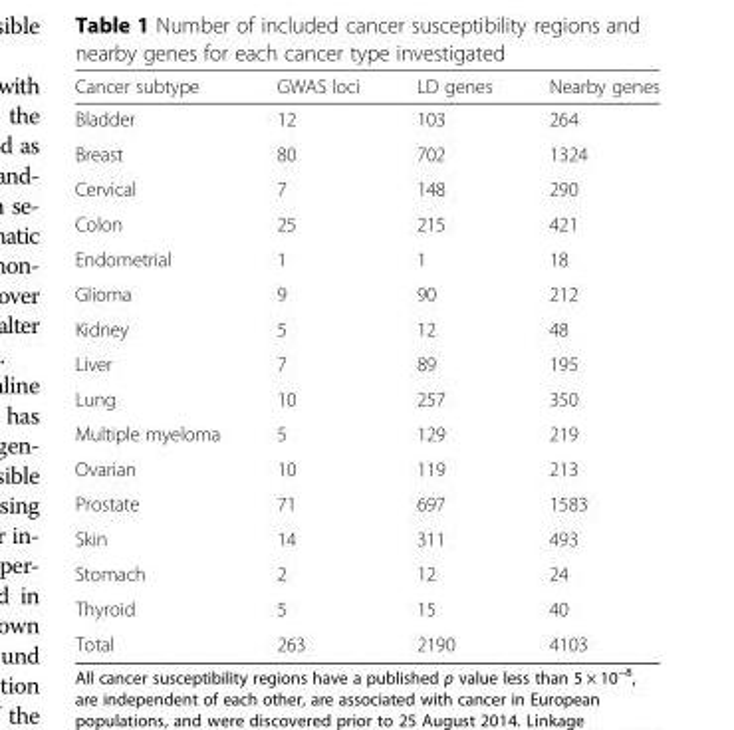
<table><thead><tr><td>Cancer subtype</td><td>GWAS loci</td><td>LD genes</td><td>Nearby genes</td></tr></thead><tbody><tr><td>Bladder</td><td>12</td><td>103</td><td>264</td></tr><tr><td>Breast</td><td>80</td><td>702</td><td>1324</td></tr><tr><td>Cervical</td><td>7</td><td>148</td><td>290</td></tr><tr><td>Colon</td><td>25</td><td>215</td><td>421</td></tr><tr><td>Endometrial</td><td>1</td><td>1</td><td>18</td></tr><tr><td>Glioma</td><td>9</td><td>90</td><td>212</td></tr><tr><td>Kidney</td><td>5</td><td>12</td><td>48</td></tr><tr><td>Liver</td><td>7</td><td>89</td><td>195</td></tr><tr><td>Lung</td><td>10</td><td>257</td><td>350</td></tr><tr><td>Multiple myeloma</td><td>5</td><td>129</td><td>219</td></tr><tr><td>Ovarian</td><td>10</td><td>119</td><td>213</td></tr><tr><td>Prostate</td><td>71</td><td>697</td><td>1583</td></tr><tr><td>Skin</td><td>14</td><td>311</td><td>493</td></tr><tr><td>Stomach</td><td>2</td><td>12</td><td>24</td></tr><tr><td>Thyroid</td><td>5</td><td>15</td><td>40</td></tr><tr><td>Total</td><td>263</td><td>2190</td><td>4103</td></tr></tbody></table>